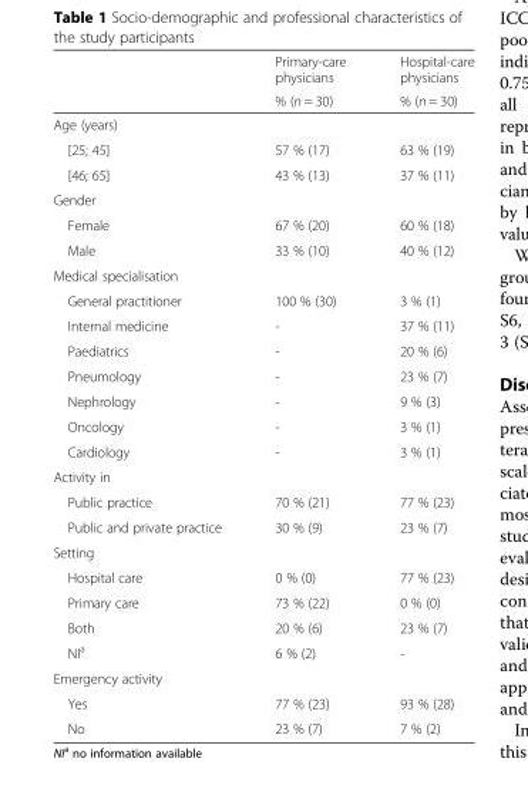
<table><thead><tr><td rowspan="2"></td><td rowspan="2">Primary-care physicians % (n = 30)</td><td rowspan="2">Hospital-care physicians % (n = 30)</td></tr><tr></tr></thead><tbody><tr><td colspan="3">Age (years)</td></tr><tr><td>[25; 45]</td><td>57 % (17)</td><td>63 % (19)</td></tr><tr><td>[46; 65]</td><td>43 % (13)</td><td>37 % (11)</td></tr><tr><td colspan="3">Gender</td></tr><tr><td>Female</td><td>67 % (20)</td><td>60 % (18)</td></tr><tr><td>Male</td><td>33 % (10)</td><td>40 % (12)</td></tr><tr><td colspan="3">Medical specialisation</td></tr><tr><td>General practitioner</td><td>100 % (30)</td><td>3 % (1)</td></tr><tr><td>Internal medicine</td><td>-</td><td>37 % (11)</td></tr><tr><td>Paediatrics</td><td>-</td><td>20 % (6)</td></tr><tr><td>Pneumology</td><td>-</td><td>23 % (7)</td></tr><tr><td>Nephrology</td><td>-</td><td>9 % (3)</td></tr><tr><td>Oncology</td><td>-</td><td>3 % (1)</td></tr><tr><td>Cardiology</td><td>-</td><td>3 % (1)</td></tr><tr><td colspan="3">Activity in</td></tr><tr><td>Public practice</td><td>70 % (21)</td><td>77 % (23)</td></tr><tr><td>Public and private practice</td><td>30 % (9)</td><td>23 % (7)</td></tr><tr><td colspan="3">Setting</td></tr><tr><td>Hospital care</td><td>0 % (0)</td><td>77 % (23)</td></tr><tr><td>Primary care</td><td>73 % (22)</td><td>0 % (0)</td></tr><tr><td>Both</td><td>20 % (6)</td><td>23 % (7)</td></tr><tr><td>NI<sup>a</sup></td><td>6 % (2)</td><td>-</td></tr><tr><td colspan="3">Emergency activity</td></tr><tr><td>Yes</td><td>77 % (23)</td><td>93 % (28)</td></tr><tr><td>No</td><td>23 % (7)</td><td>7 % (2)</td></tr></tbody></table>